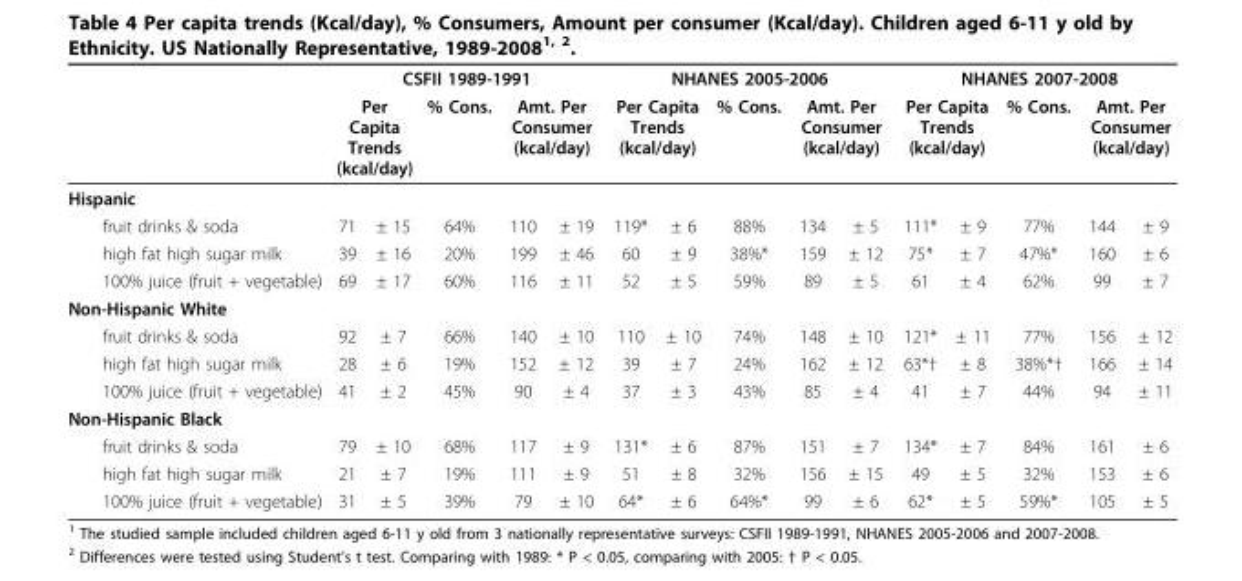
<table><thead><tr><td rowspan="3">Hispanic</td><td colspan="5">CSFII 1989-1991</td><td colspan="5">NHANES 2005-2006</td><td colspan="5">NHANES 2007-2008</td></tr><tr><td colspan="2">Per Capita Trends (kcal/day)</td><td rowspan="2">% Cons.</td><td colspan="2">Amt. Per Consumer (kcal/day)</td><td colspan="2">Per Capita Trends (kcal/day)</td><td rowspan="2">% Cons.</td><td colspan="2">Amt. Per Consumer (kcal/day)</td><td colspan="2">Per Capita Trends (kcal/day)</td><td rowspan="2">% Cons.</td><td colspan="2">Amt. Per Consumer (kcal/day)</td></tr><tr><td></td><td></td><td></td><td></td><td></td><td></td><td></td><td></td><td></td><td></td><td></td><td></td></tr></thead><tbody><tr><td>fruit drinks &amp; soda</td><td>71</td><td>± 15</td><td>64%</td><td>110</td><td>± 19</td><td>119*</td><td>± 6</td><td>88%</td><td>134</td><td>± 5</td><td>111*</td><td>± 9</td><td>77%</td><td>144</td><td>± 9</td></tr><tr><td>high fat high sugar milk</td><td>39</td><td>± 16</td><td>20%</td><td>199</td><td>± 46</td><td>60</td><td>± 9</td><td>38%*</td><td>159</td><td>± 12</td><td>75*</td><td>± 7</td><td>47%*</td><td>160</td><td>± 6</td></tr><tr><td>100% juice (fruit + vegetable)</td><td>69</td><td>± 17</td><td>60%</td><td>116</td><td>± 11</td><td>52</td><td>± 5</td><td>59%</td><td>89</td><td>± 5</td><td>61</td><td>± 4</td><td>62%</td><td>99</td><td>± 7</td></tr><tr><td colspan="16">Non-Hispanic White</td></tr><tr><td>fruit drinks &amp; soda</td><td>92</td><td>± 7</td><td>66%</td><td>140</td><td>± 10</td><td>110</td><td>± 10</td><td>74%</td><td>148</td><td>± 10</td><td>121*</td><td>± 11</td><td>77%</td><td>156</td><td>± 12</td></tr><tr><td>high fat high sugar milk</td><td>28</td><td>± 6</td><td>19%</td><td>152</td><td>± 12</td><td>39</td><td>± 7</td><td>24%</td><td>162</td><td>± 12</td><td>63*†</td><td>± 8</td><td>38%*†</td><td>166</td><td>± 14</td></tr><tr><td>100% juice (fruit + vegetable)</td><td>41</td><td>± 2</td><td>45%</td><td>90</td><td>± 4</td><td>37</td><td>± 3</td><td>43%</td><td>85</td><td>± 4</td><td>41</td><td>± 7</td><td>44%</td><td>94</td><td>± 11</td></tr><tr><td colspan="16">Non-Hispanic Black</td></tr><tr><td>fruit drinks &amp; soda</td><td>79</td><td>± 10</td><td>68%</td><td>117</td><td>± 9</td><td>131*</td><td>± 6</td><td>87%</td><td>151</td><td>± 7</td><td>134*</td><td>± 7</td><td>84%</td><td>161</td><td>± 6</td></tr><tr><td>high fat high sugar milk</td><td>21</td><td>± 7</td><td>19%</td><td>111</td><td>± 9</td><td>51</td><td>± 8</td><td>32%</td><td>156</td><td>± 15</td><td>49</td><td>± 5</td><td>32%</td><td>153</td><td>± 6</td></tr><tr><td>100% juice (fruit + vegetable)</td><td>31</td><td>± 5</td><td>39%</td><td>79</td><td>± 10</td><td>64*</td><td>± 6</td><td>64%*</td><td>99</td><td>± 6</td><td>62*</td><td>± 5</td><td>59%*</td><td>105</td><td>± 5</td></tr></tbody></table>